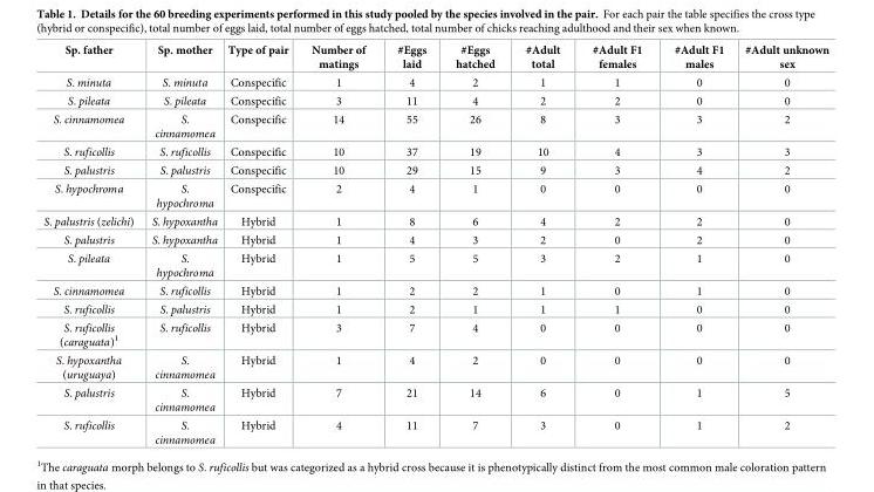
<table><thead><tr><td>Sp. father</td><td>Sp. mother</td><td>Type of pair</td><td>Number of matings</td><td>#Eggs laid</td><td>#Eggs hatched</td><td>#Adult total</td><td>#Adult F1 females</td><td>#Adult F1 males</td><td>#Adult unknown sex</td></tr></thead><tbody><tr><td>S. minuta</td><td>S. minuta</td><td>Conspecific</td><td>1</td><td>4</td><td>2</td><td>1</td><td>1</td><td>0</td><td>0</td></tr><tr><td>S. pileata</td><td>S. pileata</td><td>Conspecific</td><td>3</td><td>11</td><td>4</td><td>2</td><td>2</td><td>0</td><td>0</td></tr><tr><td>S. cinnamomea</td><td>S. cinnamomea</td><td>Conspecific</td><td>14</td><td>55</td><td>26</td><td>8</td><td>3</td><td>3</td><td>2</td></tr><tr><td>S. ruficollis</td><td>S. ruficollis</td><td>Conspecific</td><td>10</td><td>37</td><td>19</td><td>10</td><td>4</td><td>3</td><td>3</td></tr><tr><td>S. palustris</td><td>S. palustris</td><td>Conspecific</td><td>10</td><td>29</td><td>15</td><td>9</td><td>3</td><td>4</td><td>2</td></tr><tr><td>S. hypochroma</td><td>S. hypochroma</td><td>Conspecific</td><td>2</td><td>4</td><td>1</td><td>0</td><td>0</td><td>0</td><td>0</td></tr><tr><td>S. palustris (zelichi)</td><td>S. hypoxantha</td><td>Hybrid</td><td>1</td><td>8</td><td>6</td><td>4</td><td>2</td><td>2</td><td>0</td></tr><tr><td>S. palustris</td><td>S. hypoxantha</td><td>Hybrid</td><td>1</td><td>4</td><td>3</td><td>2</td><td>0</td><td>2</td><td>0</td></tr><tr><td>S. pileata</td><td>S. hypochroma</td><td>Hybrid</td><td>1</td><td>5</td><td>5</td><td>3</td><td>2</td><td>1</td><td>0</td></tr><tr><td>S. cinnamomea</td><td>S. ruficollis</td><td>Hybrid</td><td>1</td><td>2</td><td>2</td><td>1</td><td>0</td><td>1</td><td>0</td></tr><tr><td>S. ruficollis</td><td>S. palustris</td><td>Hybrid</td><td>1</td><td>2</td><td>1</td><td>1</td><td>1</td><td>0</td><td>0</td></tr><tr><td>S. ruficollis (caraguata)<sup>1</sup></td><td>S. ruficollis</td><td>Hybrid</td><td>3</td><td>7</td><td>4</td><td>0</td><td>0</td><td>0</td><td>0</td></tr><tr><td>S. hypoxantha (uruguaya)</td><td>S. cinnamomea</td><td>Hybrid</td><td>1</td><td>4</td><td>2</td><td>0</td><td>0</td><td>0</td><td>0</td></tr><tr><td>S. palustris</td><td>S. cinnamomea</td><td>Hybrid</td><td>7</td><td>21</td><td>14</td><td>6</td><td>0</td><td>1</td><td>5</td></tr><tr><td>S. ruficollis</td><td>S. cinnamomea</td><td>Hybrid</td><td>4</td><td>11</td><td>7</td><td>3</td><td>0</td><td>1</td><td>2</td></tr></tbody></table>